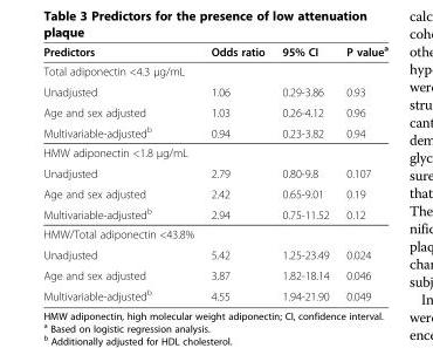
<table><thead><tr><td>Predictors</td><td>Odds ratio</td><td>95% CI</td><td>P value<sup>a</sup></td></tr></thead><tbody><tr><td colspan="4">Total adiponectin &lt;4.3 μg/mL</td></tr><tr><td>Unadjusted</td><td>1.06</td><td>0.29-3.86</td><td>0.93</td></tr><tr><td>Age and sex adjusted</td><td>1.03</td><td>0.26-4.12</td><td>0.96</td></tr><tr><td>Multivariable-adjusted<sup>b</sup></td><td>0.94</td><td>0.23-3.82</td><td>0.94</td></tr><tr><td colspan="4">HMW adiponectin &lt;1.8 μg/mL</td></tr><tr><td>Unadjusted</td><td>2.79</td><td>0.80-9.8</td><td>0.107</td></tr><tr><td>Age and sex adjusted</td><td>2.42</td><td>0.65-9.01</td><td>0.19</td></tr><tr><td>Multivariable-adjusted<sup>b</sup></td><td>2.94</td><td>0.75-11.52</td><td>0.12</td></tr><tr><td colspan="4">HMW/Total adiponectin &lt;43.8%</td></tr><tr><td>Unadjusted</td><td>5.42</td><td>1.25-23.49</td><td>0.024</td></tr><tr><td>Age and sex adjusted</td><td>3.87</td><td>1.82-18.14</td><td>0.046</td></tr><tr><td>Multivariable-adjusted<sup>b</sup></td><td>4.55</td><td>1.94-21.90</td><td>0.049</td></tr></tbody></table>